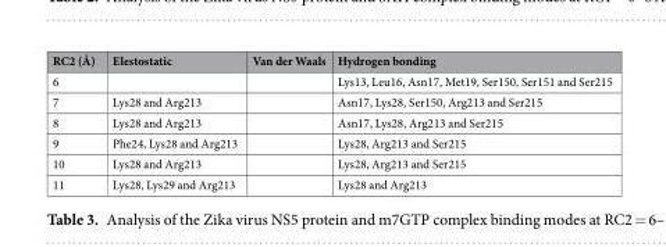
<table><thead><tr><td>RC2 (Å)</td><td>Elestostatic</td><td>Van der Waals</td><td>Hydrogen bonding</td></tr></thead><tbody><tr><td>6</td><td></td><td></td><td>Lys13, Leu16, Asn17, Met19, Ser150, Ser151 and Ser215</td></tr><tr><td>7</td><td>Lys28 and Arg213</td><td></td><td>Asn17, Lys28, Ser150, Arg213 and Ser215</td></tr><tr><td>8</td><td>Lys28 and Arg213</td><td></td><td>Asn17, Lys28, Arg213 and Ser215</td></tr><tr><td>9</td><td>Phe24, Lys28 and Arg213</td><td></td><td>Lys28, Arg213 and Ser215</td></tr><tr><td>10</td><td>Lys28 and Arg213</td><td></td><td>Lys28, Arg213 and Ser215</td></tr><tr><td>11</td><td>Lys28, Lys29 and Arg213</td><td></td><td>Lys28 and Arg213</td></tr></tbody></table>